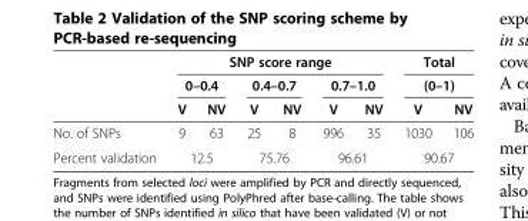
<table><thead><tr><td rowspan="3"></td><td colspan="6">SNP score range</td><td rowspan="2" colspan="2">Total (0–1)</td></tr><tr><td colspan="2">0–0.4</td><td colspan="2">0.4–0.7</td><td colspan="2">0.7–1.0</td></tr><tr><td>V</td><td>NV</td><td>V</td><td>NV</td><td>V</td><td>NV</td><td>V</td><td>NV</td></tr></thead><tbody><tr><td>No. of SNPs</td><td>9</td><td>63</td><td>25</td><td>8</td><td>996</td><td>35</td><td>1030</td><td>106</td></tr><tr><td>Percent validation</td><td colspan="2">12.5</td><td colspan="2">75.76</td><td colspan="2">96.61</td><td colspan="2">90.67</td></tr></tbody></table>